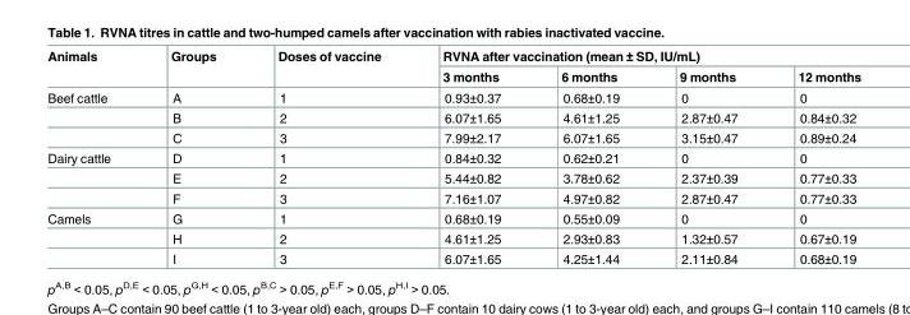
<table><thead><tr><td rowspan="2">Animals</td><td rowspan="2">Groups</td><td rowspan="2">Doses of vaccine</td><td colspan="4">RVNA after vaccination (mean ± SD, IU/mL)</td></tr><tr><td>3 months</td><td>6 months</td><td>9 months</td><td>12 months</td></tr></thead><tbody><tr><td rowspan="3">Beef cattle</td><td>A</td><td>1</td><td>0.93±0.37</td><td>0.68±0.19</td><td>0</td><td>0</td></tr><tr><td>B</td><td>2</td><td>6.07±1.65</td><td>4.61±1.25</td><td>2.87±0.47</td><td>0.84±0.32</td></tr><tr><td>C</td><td>3</td><td>7.99±2.17</td><td>6.07±1.65</td><td>3.15±0.47</td><td>0.89±0.24</td></tr><tr><td rowspan="3">Dairy cattle</td><td>D</td><td>1</td><td>0.84±0.32</td><td>0.62±0.21</td><td>0</td><td>0</td></tr><tr><td>E</td><td>2</td><td>5.44±0.82</td><td>3.78±0.62</td><td>2.37±0.39</td><td>0.77±0.33</td></tr><tr><td>F</td><td>3</td><td>7.16±1.07</td><td>4.97±0.82</td><td>2.87±0.47</td><td>0.77±0.33</td></tr><tr><td rowspan="3">Camels</td><td>G</td><td>1</td><td>0.68±0.19</td><td>0.55±0.09</td><td>0</td><td>0</td></tr><tr><td>H</td><td>2</td><td>4.61±1.25</td><td>2.93±0.83</td><td>1.32±0.57</td><td>0.67±0.19</td></tr><tr><td>I</td><td>3</td><td>6.07±1.65</td><td>4.25±1.44</td><td>2.11±0.84</td><td>0.68±0.19</td></tr></tbody></table>